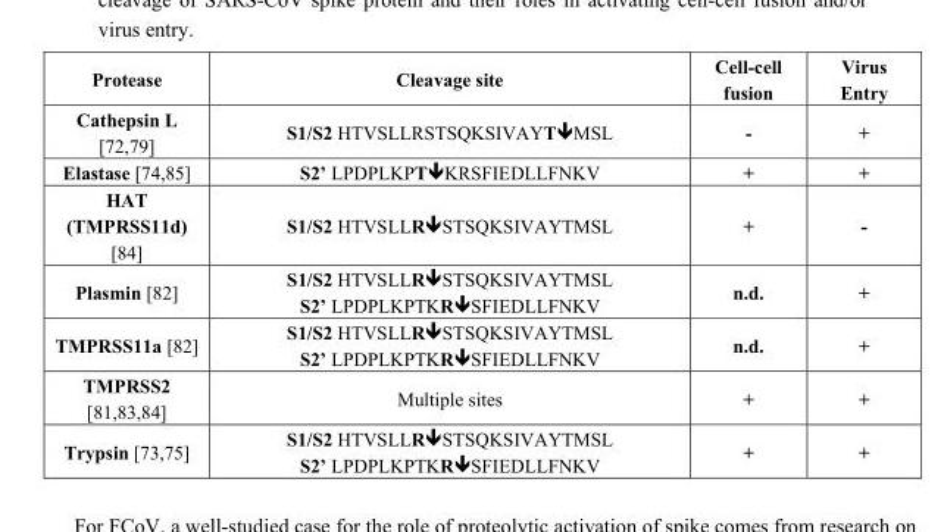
<table><thead><tr><td>Protease</td><td>Cleavage site</td><td>Cell-cell fusion</td><td>Virus Entry</td></tr></thead><tbody><tr><td>Cathepsin L [72,79]</td><td>S1/S2 HTVSLLRSTSQKSIVAYTMSL</td><td>-</td><td>+</td></tr><tr><td>Elastase [74,85]</td><td>S2’ LPDPLKPTKRSFIEDLLFNKV</td><td>+</td><td>+</td></tr><tr><td>HAT (TMPRSS11d) [84]</td><td>S1/S2 HTVSLLRSTSQKSIVAYTMSL</td><td>+</td><td>-</td></tr><tr><td>Plasmin [82]</td><td>S1/S2 HTVSLLRSTSQKSIVAYTMSL S2’ LPDPLKPTKRSFIEDLLFNKV</td><td>n.d.</td><td>+</td></tr><tr><td>TMPRSS11a [82]</td><td>S1/S2 HTVSLLRSTSQKSIVAYTMSL S2’ LPDPLKPTKRSFIEDLLFNKV</td><td>n.d.</td><td>+</td></tr><tr><td>TMPRSS2 [81,83,84]</td><td>Multiple sites</td><td>+</td><td>+</td></tr><tr><td>Trypsin [73,75]</td><td>S1/S2 HTVSLLRSTSQKSIVAYTMSL S2’ LPDPLKPTKRSFIEDLLFNKV</td><td>+</td><td>+</td></tr></tbody></table>